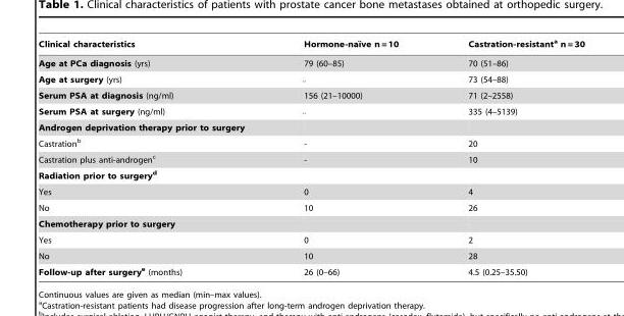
<table><thead><tr><td>Clinical characteristics</td><td>Hormone-naı¨ve n = 10</td><td>Castration-resistant<sup>a</sup> n = 30</td></tr></thead><tbody><tr><td>Age at PCa diagnosis (yrs)</td><td>79 (60–85)</td><td>70 (51–86)</td></tr><tr><td>Age at surgery (yrs)</td><td>¨</td><td>73 (54–88)</td></tr><tr><td>Serum PSA at diagnosis (ng/ml)</td><td>156 (21–10000)</td><td>71 (2–2558)</td></tr><tr><td>Serum PSA at surgery (ng/ml)</td><td>¨</td><td>335 (4–5139)</td></tr><tr><td colspan="3">Androgen deprivation therapy prior to surgery</td></tr><tr><td>Castration<sup>b</sup></td><td>-</td><td>20</td></tr><tr><td>Castration plus anti-androgen<sup>c</sup></td><td>-</td><td>10</td></tr><tr><td colspan="3">Radiation prior to surgeryd</td></tr><tr><td>Yes</td><td>0</td><td>4</td></tr><tr><td>No</td><td>10</td><td>26</td></tr><tr><td colspan="3">Chemotherapy prior to surgery</td></tr><tr><td>Yes</td><td>0</td><td>2</td></tr><tr><td>No</td><td>10</td><td>28</td></tr><tr><td>Follow-up after surgerye (months)</td><td>26 (0–66)</td><td>4.5 (0.25–35.50)</td></tr></tbody></table>